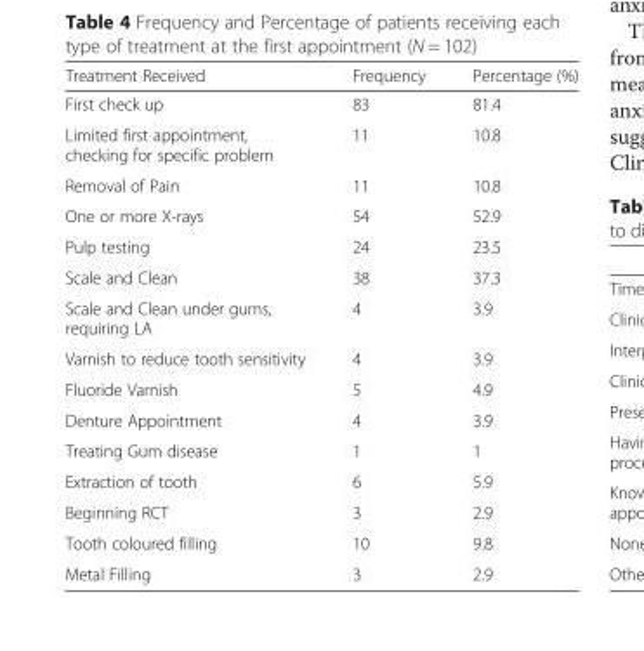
<table><thead><tr><td>Treatment Received</td><td>Frequency</td><td>Percentage (%)</td></tr></thead><tbody><tr><td>First check up</td><td>83</td><td>81.4</td></tr><tr><td>Limited first appointment, checking for specific problem</td><td>11</td><td>10.8</td></tr><tr><td>Removal of Pain</td><td>11</td><td>10.8</td></tr><tr><td>One or more X-rays</td><td>54</td><td>52.9</td></tr><tr><td>Pulp testing</td><td>24</td><td>23.5</td></tr><tr><td>Scale and Clean</td><td>38</td><td>37.3</td></tr><tr><td>Scale and Clean under gums, requiring LA</td><td>4</td><td>3.9</td></tr><tr><td>Varnish to reduce tooth sensitivity</td><td>4</td><td>3.9</td></tr><tr><td>Fluoride Varnish</td><td>5</td><td>4.9</td></tr><tr><td>Denture Appointment</td><td>4</td><td>3.9</td></tr><tr><td>Treating Gum disease</td><td>1</td><td>1</td></tr><tr><td>Extraction of tooth</td><td>6</td><td>5.9</td></tr><tr><td>Beginning RCT</td><td>3</td><td>2.9</td></tr><tr><td>Tooth coloured filling</td><td>10</td><td>9.8</td></tr><tr><td>Metal Filling</td><td>3</td><td>2.9</td></tr></tbody></table>